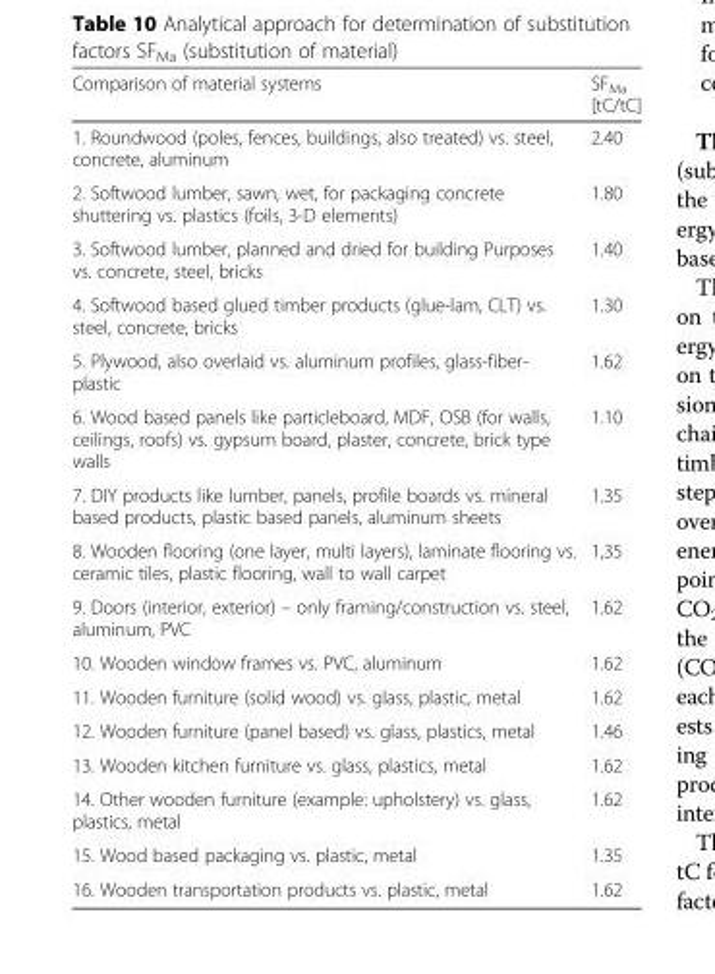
<table><thead><tr><td>Comparison of material systems</td><td>SF<sub>Ma</sub> [tC/tC]</td></tr></thead><tbody><tr><td>1. Roundwood (poles, fences, buildings, also treated) vs. steel, concrete, aluminum</td><td>2.40</td></tr><tr><td>2. Softwood lumber, sawn, wet, for packaging concrete shuttering vs. plastics (foils, 3-D elements)</td><td>1.80</td></tr><tr><td>3. Softwood lumber, planned and dried for building Purposes vs. concrete, steel, bricks</td><td>1.40</td></tr><tr><td>4. Softwood based glued timber products (glue-lam, CLT) vs. steel, concrete, bricks</td><td>1.30</td></tr><tr><td>5. Plywood, also overlaid vs. aluminum profiles, glass-fiber- plastic</td><td>1.62</td></tr><tr><td>6. Wood based panels like particleboard, MDF, OSB (for walls, ceilings, roofs) vs. gypsum board, plaster, concrete, brick type walls</td><td>1.10</td></tr><tr><td>7. DIY products like lumber, panels, profile boards vs. mineral based products, plastic based panels, aluminum sheets</td><td>1.35</td></tr><tr><td>8. Wooden flooring (one layer, multi layers), laminate flooring vs. ceramic tiles, plastic flooring, wall to wall carpet</td><td>1,35</td></tr><tr><td>9. Doors (interior, exterior) – only framing/construction vs. steel, aluminum, PVC</td><td>1.62</td></tr><tr><td>10. Wooden window frames vs. PVC, aluminum</td><td>1.62</td></tr><tr><td>11. Wooden furniture (solid wood) vs. glass, plastic, metal</td><td>1.62</td></tr><tr><td>12. Wooden furniture (panel based) vs. glass, plastics, metal</td><td>1.46</td></tr><tr><td>13. Wooden kitchen furniture vs. glass, plastics, metal</td><td>1.62</td></tr><tr><td>14. Other wooden furniture (example: upholstery) vs. glass, plastics, metal</td><td>1.62</td></tr><tr><td>15. Wood based packaging vs. plastic, metal</td><td>1.35</td></tr><tr><td>16. Wooden transportation products vs. plastic, metal</td><td>1.62</td></tr></tbody></table>